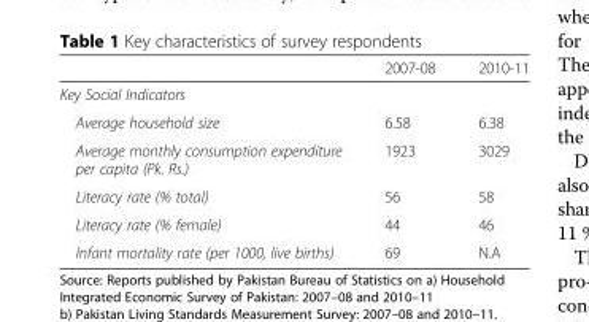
<table><thead><tr><td></td><td>2007-08</td><td>2010-11</td></tr></thead><tbody><tr><td colspan="3">Key Social Indicators</td></tr><tr><td>Average household size</td><td>6.58</td><td>6.38</td></tr><tr><td>Average monthly consumption expenditure per capita (Pk. Rs.)</td><td>1923</td><td>3029</td></tr><tr><td>Literacy rate (% total)</td><td>56</td><td>58</td></tr><tr><td>Literacy rate (% female)</td><td>44</td><td>46</td></tr><tr><td>Infant mortality rate (per 1000, live births)</td><td>69</td><td>N.A</td></tr></tbody></table>